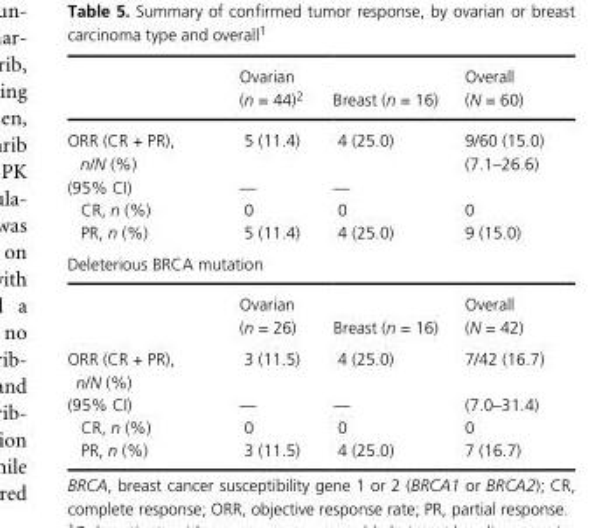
<table><thead><tr><td></td><td>Ovarian (n = 44)2</td><td>Breast (n = 16)</td><td>Overall (N = 60)</td></tr></thead><tbody><tr><td>ORR (CR + PR), n/N (%) (95% CI)</td><td>5 (11.4) —</td><td>4 (25.0) —</td><td>9/60 (15.0) (7.1–26.6)</td></tr><tr><td>CR, n (%)</td><td>0</td><td>0</td><td>0</td></tr><tr><td>PR, n (%)</td><td>5 (11.4)</td><td>4 (25.0)</td><td>9 (15.0)</td></tr><tr><td colspan="4">Deleterious BRCA mutation</td></tr><tr><td></td><td>Ovarian (n = 26)</td><td>Breast (n = 16)</td><td>Overall (N = 42)</td></tr><tr><td>ORR (CR + PR), n/N (%)</td><td>3 (11.5)</td><td>4 (25.0)</td><td>7/42 (16.7)</td></tr><tr><td>(95% CI)</td><td>—</td><td>—</td><td>(7.0–31.4)</td></tr><tr><td>CR, n (%)</td><td>0</td><td>0</td><td>0</td></tr><tr><td>PR, n (%)</td><td>3 (11.5)</td><td>4 (25.0)</td><td>7 (16.7)</td></tr></tbody></table>